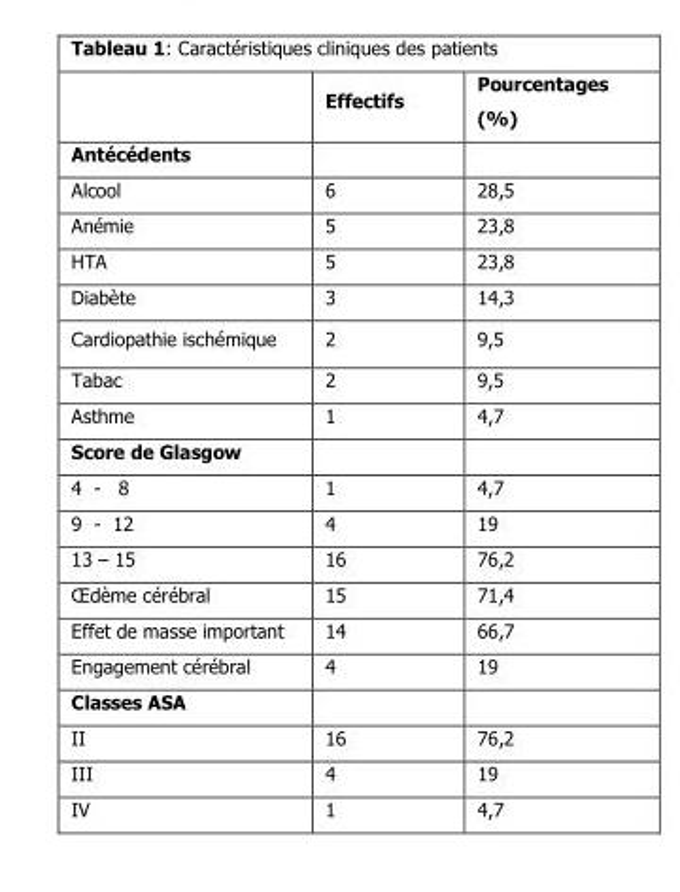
<table><thead><tr><td></td><td>Effectifs</td><td>Pourcentages (%)</td></tr></thead><tbody><tr><td colspan="3">Antécédents</td></tr><tr><td>Alcool</td><td>6</td><td>28,5</td></tr><tr><td>Anémie</td><td>5</td><td>23,8</td></tr><tr><td>HTA</td><td>5</td><td>23,8</td></tr><tr><td>Diabète</td><td>3</td><td>14,3</td></tr><tr><td>Cardiopathie ischémique</td><td>2</td><td>9,5</td></tr><tr><td>Tabac</td><td>2</td><td>9,5</td></tr><tr><td>Asthme</td><td>1</td><td>4,7</td></tr><tr><td colspan="3">Score de Glasgow</td></tr><tr><td>4 - 8</td><td>1</td><td>4,7</td></tr><tr><td>9 - 12</td><td>4</td><td>19</td></tr><tr><td>13 – 15</td><td>16</td><td>76,2</td></tr><tr><td>Œdème cérébral</td><td>15</td><td>71,4</td></tr><tr><td>Effet de masse important</td><td>14</td><td>66,7</td></tr><tr><td>Engagement cérébral</td><td>4</td><td>19</td></tr><tr><td colspan="3">Classes ASA</td></tr><tr><td>II</td><td>16</td><td>76,2</td></tr><tr><td>III</td><td>4</td><td>19</td></tr><tr><td>IV</td><td>1</td><td>4,7</td></tr></tbody></table>